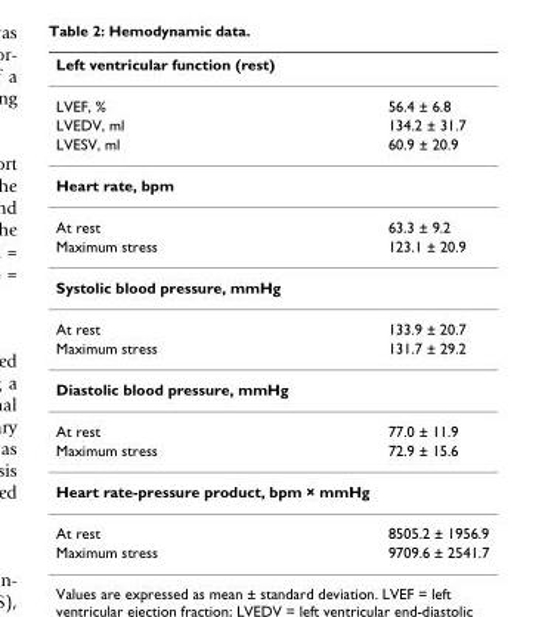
<table><thead><tr><td>Left ventricular function (rest)</td><td></td></tr></thead><tbody><tr><td>LVEF, %</td><td>56.4 ± 6.8</td></tr><tr><td>LVEDV, ml</td><td>134.2 ± 31.7</td></tr><tr><td>LVESV, ml</td><td>60.9 ± 20.9</td></tr><tr><td colspan="2">Heart rate, bpm</td></tr><tr><td>At rest</td><td>63.3 ± 9.2</td></tr><tr><td>Maximum stress</td><td>123.1 ± 20.9</td></tr><tr><td colspan="2">Systolic blood pressure, mmHg</td></tr><tr><td>At rest</td><td>133.9 ± 20.7</td></tr><tr><td>Maximum stress</td><td>131.7 ± 29.2</td></tr><tr><td colspan="2">Diastolic blood pressure, mmHg</td></tr><tr><td>At rest</td><td>77.0 ± 11.9</td></tr><tr><td>Maximum stress</td><td>72.9 ± 15.6</td></tr><tr><td colspan="2">Heart rate-pressure product, bpm × mmHg</td></tr><tr><td>At rest</td><td>8505.2 ± 1956.9</td></tr><tr><td>Maximum stress</td><td>9709.6 ± 2541.7</td></tr></tbody></table>